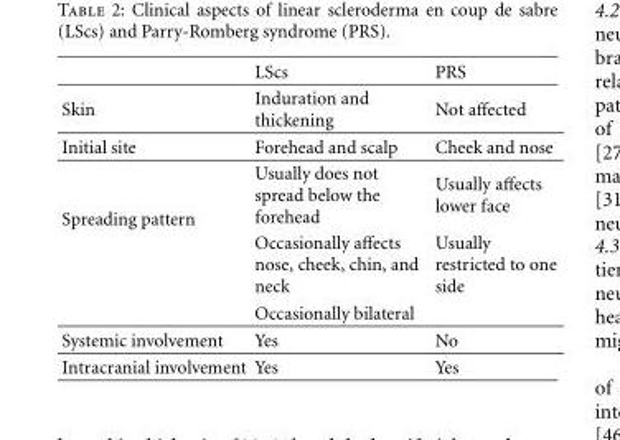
<table><thead><tr><td></td><td>LScs</td><td>PRS</td></tr></thead><tbody><tr><td>Skin</td><td>Induration and thickening</td><td>Not affected</td></tr><tr><td>Initial site</td><td>Forehead and scalp</td><td>Cheek and nose</td></tr><tr><td rowspan="3">Spreading pattern</td><td>Usually does not spread below the forehead</td><td>Usually affects lower face</td></tr><tr><td>Occasionally affects nose, cheek, chin, and neck</td><td>Usually restricted to one side</td></tr><tr><td>Occasionally bilateral</td><td></td></tr><tr><td>Systemic involvement</td><td>Yes</td><td>No</td></tr><tr><td>Intracranial involvement</td><td>Yes</td><td>Yes</td></tr></tbody></table>